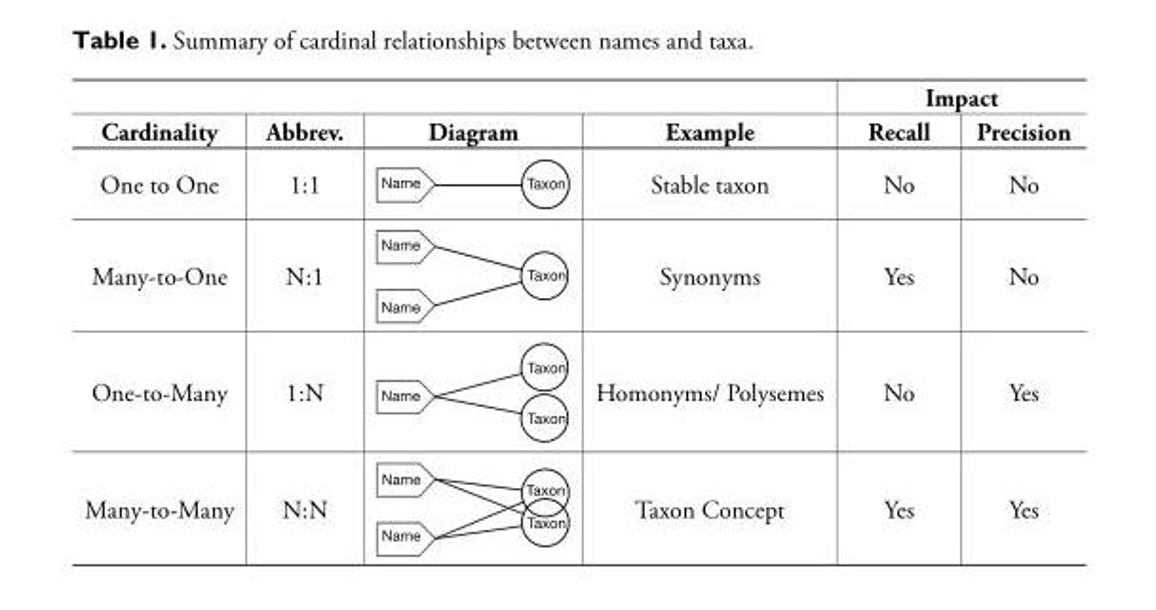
<table><thead><tr><td rowspan="2">Cardinality</td><td rowspan="2">Abbrev.</td><td rowspan="2">Diagram</td><td rowspan="2">Example</td><td colspan="2">Impact</td></tr><tr><td>Recall</td><td>Precision</td></tr></thead><tbody><tr><td>One to One</td><td>1:1</td><td></td><td>Stable taxon</td><td>No</td><td>No</td></tr><tr><td>Many-to-One</td><td>N:1</td><td></td><td>Synonyms</td><td>Yes</td><td>No</td></tr><tr><td>One-to-Many</td><td>1:N</td><td></td><td>Homonyms/ Polysemes</td><td>No</td><td>Yes</td></tr><tr><td>Many-to-Many</td><td>N:N</td><td></td><td>Taxon Concept</td><td>Yes</td><td>Yes</td></tr></tbody></table>